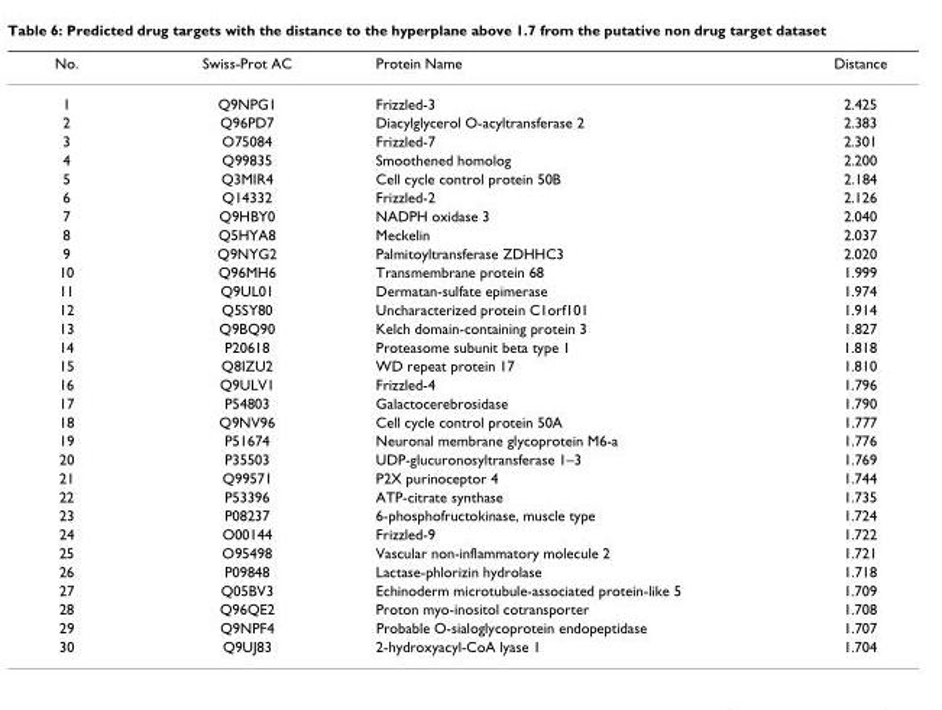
<table><thead><tr><td>No.</td><td>Swiss-Prot AC</td><td>Protein Name</td><td>Distance</td></tr></thead><tbody><tr><td>1</td><td>Q9NPG1</td><td>Frizzled-3</td><td>2.425</td></tr><tr><td>2</td><td>Q96PD7</td><td>Diacylglycerol O-acyltransferase 2</td><td>2.383</td></tr><tr><td>3</td><td>O75084</td><td>Frizzled-7</td><td>2.301</td></tr><tr><td>4</td><td>Q99835</td><td>Smoothened homolog</td><td>2.200</td></tr><tr><td>5</td><td>Q3MIR4</td><td>Cell cycle control protein 50B</td><td>2.184</td></tr><tr><td>6</td><td>Q14332</td><td>Frizzled-2</td><td>2.126</td></tr><tr><td>7</td><td>Q9HBY0</td><td>NADPH oxidase 3</td><td>2.040</td></tr><tr><td>8</td><td>Q5HYA8</td><td>Meckelin</td><td>2.037</td></tr><tr><td>9</td><td>Q9NYG2</td><td>Palmitoyltransferase ZDHHC3</td><td>2.020</td></tr><tr><td>10</td><td>Q96MH6</td><td>Transmembrane protein 68</td><td>1.999</td></tr><tr><td>11</td><td>Q9UL01</td><td>Dermatan-sulfate epimerase</td><td>1.974</td></tr><tr><td>12</td><td>Q5SY80</td><td>Uncharacterized protein C1orf101</td><td>1.914</td></tr><tr><td>13</td><td>Q9BQ90</td><td>Kelch domain-containing protein 3</td><td>1.827</td></tr><tr><td>14</td><td>P20618</td><td>Proteasome subunit beta type 1</td><td>1.818</td></tr><tr><td>15</td><td>Q8IZU2</td><td>WD repeat protein 17</td><td>1.810</td></tr><tr><td>16</td><td>Q9ULV1</td><td>Frizzled-4</td><td>1.796</td></tr><tr><td>17</td><td>P54803</td><td>Galactocerebrosidase</td><td>1.790</td></tr><tr><td>18</td><td>Q9NV96</td><td>Cell cycle control protein 50A</td><td>1.777</td></tr><tr><td>19</td><td>P51674</td><td>Neuronal membrane glycoprotein M6-a</td><td>1.776</td></tr><tr><td>20</td><td>P35503</td><td>UDP-glucuronosyltransferase 1–3</td><td>1.769</td></tr><tr><td>21</td><td>Q99571</td><td>P2X purinoceptor 4</td><td>1.744</td></tr><tr><td>22</td><td>P53396</td><td>ATP-citrate synthase</td><td>1.735</td></tr><tr><td>23</td><td>P08237</td><td>6-phosphofructokinase, muscle type</td><td>1.724</td></tr><tr><td>24</td><td>O00144</td><td>Frizzled-9</td><td>1.722</td></tr><tr><td>25</td><td>O95498</td><td>Vascular non-inflammatory molecule 2</td><td>1.721</td></tr><tr><td>26</td><td>P09848</td><td>Lactase-phlorizin hydrolase</td><td>1.718</td></tr><tr><td>27</td><td>Q05BV3</td><td>Echinoderm microtubule-associated protein-like 5</td><td>1.709</td></tr><tr><td>28</td><td>Q96QE2</td><td>Proton myo-inositol cotransporter</td><td>1.708</td></tr><tr><td>29</td><td>Q9NPF4</td><td>Probable O-sialoglycoprotein endopeptidase</td><td>1.707</td></tr><tr><td>30</td><td>Q9UJ83</td><td>2-hydroxyacyl-CoA lyase 1</td><td>1.704</td></tr></tbody></table>